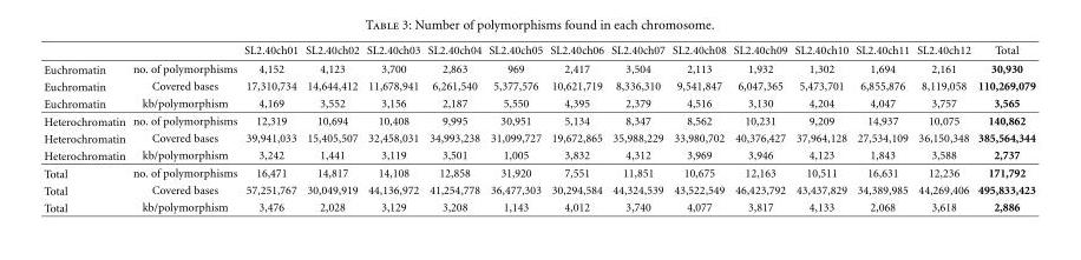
<table><thead><tr><td></td><td></td><td>SL2.40ch01</td><td>SL2.40ch02</td><td>SL2.40ch03</td><td>SL2.40ch04</td><td>SL2.40ch05</td><td>SL2.40ch06</td><td>SL2.40ch07</td><td>SL2.40ch08</td><td>SL2.40ch09</td><td>SL2.40ch10</td><td>SL2.40ch11</td><td>SL2.40ch12</td><td>Total</td></tr></thead><tbody><tr><td>Euchromatin</td><td>no. of polymorphisms</td><td>4,152</td><td>4,123</td><td>3,700</td><td>2,863</td><td>969</td><td>2,417</td><td>3,504</td><td>2,113</td><td>1,932</td><td>1,302</td><td>1,694</td><td>2,161</td><td>30,930</td></tr><tr><td>Euchromatin</td><td>Covered bases</td><td>17,310,734</td><td>14,644,412</td><td>11,678,941</td><td>6,261,540</td><td>5,377,576</td><td>10,621,719</td><td>8,336,310</td><td>9,541,847</td><td>6,047,365</td><td>5,473,701</td><td>6,855,876</td><td>8,119,058</td><td>110,269,079</td></tr><tr><td>Euchromatin</td><td>kb/polymorphism</td><td>4,169</td><td>3,552</td><td>3,156</td><td>2,187</td><td>5,550</td><td>4,395</td><td>2,379</td><td>4,516</td><td>3,130</td><td>4,204</td><td>4,047</td><td>3,757</td><td>3,565</td></tr><tr><td>Heterochromatin</td><td>no. of polymorphisms</td><td>12,319</td><td>10,694</td><td>10,408</td><td>9,995</td><td>30,951</td><td>5,134</td><td>8,347</td><td>8,562</td><td>10,231</td><td>9,209</td><td>14,937</td><td>10,075</td><td>140,862</td></tr><tr><td>Heterochromatin</td><td>Covered bases</td><td>39,941,033</td><td>15,405,507</td><td>32,458,031</td><td>34,993,238</td><td>31,099,727</td><td>19,672,865</td><td>35,988,229</td><td>33,980,702</td><td>40,376,427</td><td>37,964,128</td><td>27,534,109</td><td>36,150,348</td><td>385,564,344</td></tr><tr><td>Heterochromatin</td><td>kb/polymorphism</td><td>3,242</td><td>1,441</td><td>3,119</td><td>3,501</td><td>1,005</td><td>3,832</td><td>4,312</td><td>3,969</td><td>3,946</td><td>4,123</td><td>1,843</td><td>3,588</td><td>2,737</td></tr><tr><td>Total</td><td>no. of polymorphisms</td><td>16,471</td><td>14,817</td><td>14,108</td><td>12,858</td><td>31,920</td><td>7,551</td><td>11,851</td><td>10,675</td><td>12,163</td><td>10,511</td><td>16,631</td><td>12,236</td><td>171,792</td></tr><tr><td>Total</td><td>Covered bases</td><td>57,251,767</td><td>30,049,919</td><td>44,136,972</td><td>41,254,778</td><td>36,477,303</td><td>30,294,584</td><td>44,324,539</td><td>43,522,549</td><td>46,423,792</td><td>43,437,829</td><td>34,389,985</td><td>44,269,406</td><td>495,833,423</td></tr><tr><td>Total</td><td>kb/polymorphism</td><td>3,476</td><td>2,028</td><td>3,129</td><td>3,208</td><td>1,143</td><td>4,012</td><td>3,740</td><td>4,077</td><td>3,817</td><td>4,133</td><td>2,068</td><td>3,618</td><td>2,886</td></tr></tbody></table>